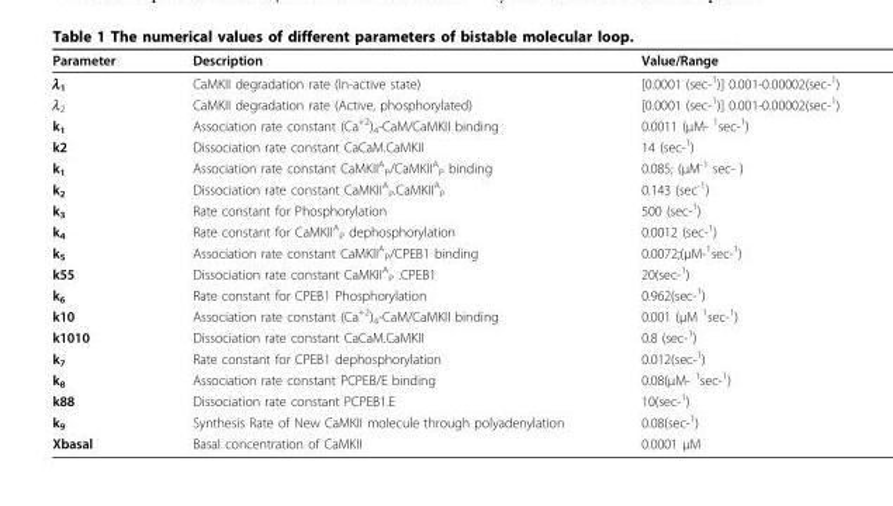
<table><thead><tr><td>Parameter</td><td>Description</td><td>Value/Range</td></tr></thead><tbody><tr><td>λ<sub>1</sub></td><td>CaMKII degradation rate (In-active state)</td><td>[0.0001 (sec-<sup>1</sup>)] 0.001-0.00002(sec-<sup>1</sup>)</td></tr><tr><td>λ<sub>2</sub></td><td>CaMKII degradation rate (Active, phosphorylated)</td><td>[0.0001 (sec-<sup>1</sup>)] 0.001-0.00002(sec-<sup>1</sup>)</td></tr><tr><td>k<sub>1</sub></td><td>Association rate constant (Ca<sup>+2</sup>)<sub>4</sub>-CaM/CaMKII binding</td><td>0.0011 (μM- <sup>1</sup>sec-<sup>1</sup>)</td></tr><tr><td>k2</td><td>Dissociation rate constant CaCaM.CaMKII</td><td>14 (sec-<sup>1</sup>)</td></tr><tr><td>k<sub>1</sub></td><td>Association rate constant CaMKII<sup>A</sup> <sub>P</sub>/CaMKII<sup>A</sup> <sub>P</sub> binding</td><td>0.085; (μM<sup>-1</sup> sec- )</td></tr><tr><td>k<sub>2</sub></td><td>Dissociation rate constant CaMKII<sup>A</sup> <sub>P</sub>.CaMKII<sup>A</sup> <sub>P</sub></td><td>0.143 (sec<sup>-1</sup>)</td></tr><tr><td>k<sub>3</sub></td><td>Rate constant for Phosphorylation</td><td>500 (sec-<sup>1</sup>)</td></tr><tr><td>k<sub>4</sub></td><td>Rate constant for CaMKII<sup>A</sup> <sub>P</sub> dephosphorylation</td><td>0.0012 (sec-<sup>1</sup>)</td></tr><tr><td>k<sub>5</sub></td><td>Association rate constant CaMKII<sup>A</sup> <sub>P</sub>/CPEB1 binding</td><td>0.0072;(μM-<sup>1</sup>sec-<sup>1</sup>)</td></tr><tr><td>k55</td><td>Dissociation rate constant CaMKII<sup>A</sup> <sub>P</sub> .CPEB1</td><td>20(sec-<sup>1</sup>)</td></tr><tr><td>k<sub>6</sub></td><td>Rate constant for CPEB1 Phosphorylation</td><td>0.962(sec-<sup>1</sup>)</td></tr><tr><td>k10</td><td>Association rate constant (Ca<sup>+2</sup>)<sub>4</sub>-CaM/CaMKII binding</td><td>0.001 (μM <sup>1</sup>sec-<sup>1</sup>)</td></tr><tr><td>k1010</td><td>Dissociation rate constant CaCaM.CaMKII</td><td>0.8 (sec-<sup>1</sup>)</td></tr><tr><td>k<sub>7</sub></td><td>Rate constant for CPEB1 dephosphorylation</td><td>0.012(sec-<sup>1</sup>)</td></tr><tr><td>k<sub>8</sub></td><td>Association rate constant PCPEB/E binding</td><td>0.08(μM- <sup>1</sup>sec-<sup>1</sup>)</td></tr><tr><td>k88</td><td>Dissociation rate constant PCPEB1.E</td><td>10(sec-<sup>1</sup>)</td></tr><tr><td>k<sub>9</sub></td><td>Synthesis Rate of New CaMKII molecule through polyadenylation</td><td>0.08(sec-<sup>1</sup>)</td></tr><tr><td>Xbasal</td><td>Basal concentration of CaMKII</td><td>0.0001 μM</td></tr></tbody></table>